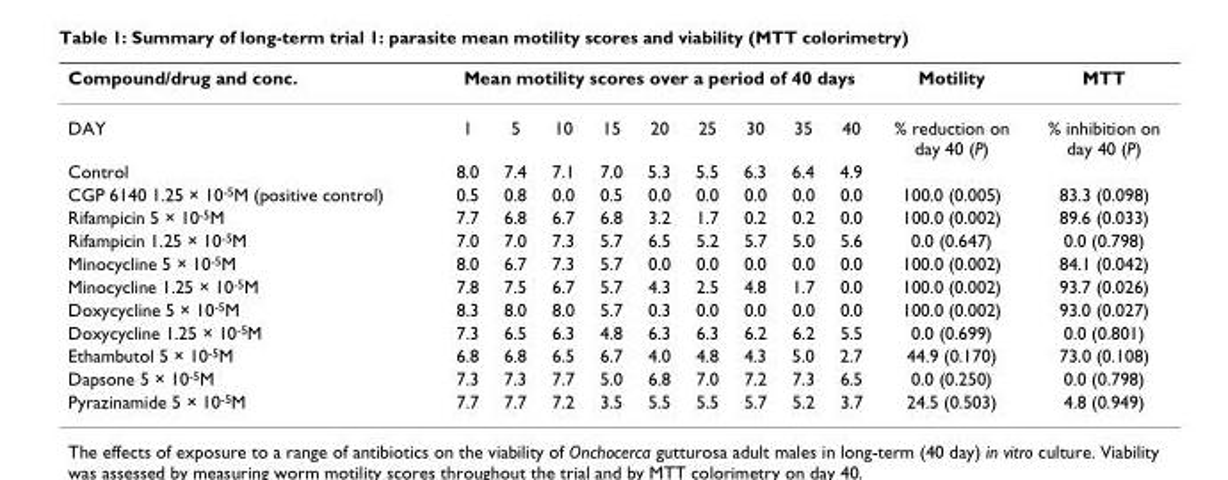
<table><thead><tr><td rowspan="2">Compound/drug and conc. DAY</td><td colspan="9">Mean motility scores over a period of 40 days</td><td rowspan="2">Motility % reduction on day 40 (P)</td><td rowspan="2">MTT % inhibition on day 40 (P)</td></tr><tr><td>1</td><td>5</td><td>10</td><td>15</td><td>20</td><td>25</td><td>30</td><td>35</td><td>40</td></tr></thead><tbody><tr><td>Control</td><td>8.0</td><td>7.4</td><td>7.1</td><td>7.0</td><td>5.3</td><td>5.5</td><td>6.3</td><td>6.4</td><td>4.9</td><td></td><td></td></tr><tr><td>CGP 6140 1.25 × 10<sup>-5</sup>M (positive control)</td><td>0.5</td><td>0.8</td><td>0.0</td><td>0.5</td><td>0.0</td><td>0.0</td><td>0.0</td><td>0.0</td><td>0.0</td><td>100.0 (0.005)</td><td>83.3 (0.098)</td></tr><tr><td>Rifampicin 5 × 10<sup>-5</sup>M</td><td>7.7</td><td>6.8</td><td>6.7</td><td>6.8</td><td>3.2</td><td>1.7</td><td>0.2</td><td>0.2</td><td>0.0</td><td>100.0 (0.002)</td><td>89.6 (0.033)</td></tr><tr><td>Rifampicin 1.25 × 10<sup>-5</sup>M</td><td>7.0</td><td>7.0</td><td>7.3</td><td>5.7</td><td>6.5</td><td>5.2</td><td>5.7</td><td>5.0</td><td>5.6</td><td>0.0 (0.647)</td><td>0.0 (0.798)</td></tr><tr><td>Minocycline 5 × 10<sup>-5</sup>M</td><td>8.0</td><td>6.7</td><td>7.3</td><td>5.7</td><td>0.0</td><td>0.0</td><td>0.0</td><td>0.0</td><td>0.0</td><td>100.0 (0.002)</td><td>84.1 (0.042)</td></tr><tr><td>Minocycline 1.25 × 10<sup>-5</sup>M</td><td>7.8</td><td>7.5</td><td>6.7</td><td>5.7</td><td>4.3</td><td>2.5</td><td>4.8</td><td>1.7</td><td>0.0</td><td>100.0 (0.002)</td><td>93.7 (0.026)</td></tr><tr><td>Doxycycline 5 × 10<sup>-5</sup>M</td><td>8.3</td><td>8.0</td><td>8.0</td><td>5.7</td><td>0.3</td><td>0.0</td><td>0.0</td><td>0.0</td><td>0.0</td><td>100.0 (0.002)</td><td>93.0 (0.027)</td></tr><tr><td>Doxycycline 1.25 × 10<sup>-5</sup>M</td><td>7.3</td><td>6.5</td><td>6.3</td><td>4.8</td><td>6.3</td><td>6.3</td><td>6.2</td><td>6.2</td><td>5.5</td><td>0.0 (0.699)</td><td>0.0 (0.801)</td></tr><tr><td>Ethambutol 5 × 10<sup>-5</sup>M</td><td>6.8</td><td>6.8</td><td>6.5</td><td>6.7</td><td>4.0</td><td>4.8</td><td>4.3</td><td>5.0</td><td>2.7</td><td>44.9 (0.170)</td><td>73.0 (0.108)</td></tr><tr><td>Dapsone 5 × 10<sup>-5</sup>M</td><td>7.3</td><td>7.3</td><td>7.7</td><td>5.0</td><td>6.8</td><td>7.0</td><td>7.2</td><td>7.3</td><td>6.5</td><td>0.0 (0.250)</td><td>0.0 (0.798)</td></tr><tr><td>Pyrazinamide 5 × 10<sup>-5</sup>M</td><td>7.7</td><td>7.7</td><td>7.2</td><td>3.5</td><td>5.5</td><td>5.5</td><td>5.7</td><td>5.2</td><td>3.7</td><td>24.5 (0.503)</td><td>4.8 (0.949)</td></tr></tbody></table>